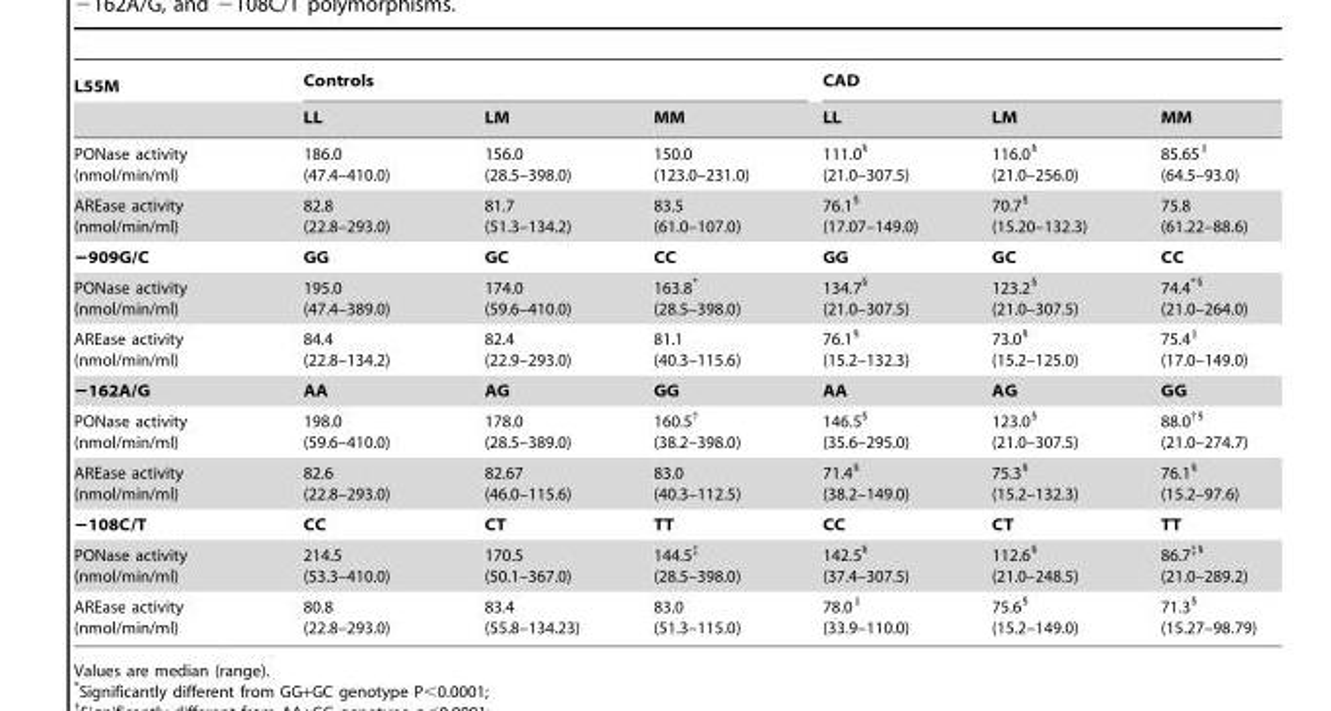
<table><thead><tr><td rowspan="2">L55M</td><td colspan="3">Controls</td><td colspan="3">CAD</td></tr><tr><td>LL</td><td>LM</td><td>MM</td><td>LL</td><td>LM</td><td>MM</td></tr></thead><tbody><tr><td>PONase activity (nmol/min/ml)</td><td>186.0 (47.4–410.0)</td><td>156.0 (28.5–398.0)</td><td>150.0 (123.0–231.0)</td><td>111.0§ (21.0–307.5)</td><td>116.0§ (21.0–256.0)</td><td>85.65∥ (64.5–93.0)</td></tr><tr><td>AREase activity (nmol/min/ml)</td><td>82.8 (22.8–293.0)</td><td>81.7 (51.3–134.2)</td><td>83.5 (61.0–107.0)</td><td>76.1§ (17.07–149.0)</td><td>70.7§ (15.20–132.3)</td><td>75.8 (61.22–88.6)</td></tr><tr><td>−909G/C</td><td>GG</td><td>GC</td><td>CC</td><td>GG</td><td>GC</td><td>CC</td></tr><tr><td>PONase activity (nmol/min/ml)</td><td>195.0 (47.4–389.0)</td><td>174.0 (59.6–410.0)</td><td>163.8* (28.5–398.0)</td><td>134.7§ (21.0–307.5)</td><td>123.2§ (21.0–307.5)</td><td>74.4*§ (21.0–264.0)</td></tr><tr><td>AREase activity (nmol/min/ml)</td><td>84.4 (22.8–134.2)</td><td>82.4 (22.9–293.0)</td><td>81.1 (40.3–115.6)</td><td>76.1§ (15.2–132.3)</td><td>73.0§ (15.2–125.0)</td><td>75.4∥ (17.0–149.0)</td></tr><tr><td>−162A/G</td><td>AA</td><td>AG</td><td>GG</td><td>AA</td><td>AG</td><td>GG</td></tr><tr><td>PONase activity (nmol/min/ml)</td><td>198.0 (59.6–410.0)</td><td>178.0 (28.5–389.0)</td><td>160.5† (38.2–398.0)</td><td>146.5§ (35.6–295.0)</td><td>123.0§ (21.0–307.5)</td><td>88.0†§ (21.0–274.7)</td></tr><tr><td>AREase activity (nmol/min/ml)</td><td>82.6 (22.8–293.0)</td><td>82.67 (46.0–115.6)</td><td>83.0 (40.3–112.5)</td><td>71.4§ (38.2–149.0)</td><td>75.3§ (15.2–132.3)</td><td>76.1§ (15.2–97.6)</td></tr><tr><td>−108C/T</td><td>CC</td><td>CT</td><td>TT</td><td>CC</td><td>CT</td><td>TT</td></tr><tr><td>PONase activity (nmol/min/ml)</td><td>214.5 (53.3–410.0)</td><td>170.5 (50.1–367.0)</td><td>144.5‡ (28.5–398.0)</td><td>142.5§ (37.4–307.5)</td><td>112.6§ (21.0–248.5)</td><td>86.7‡§ (21.0–289.2)</td></tr><tr><td>AREase activity (nmol/min/ml)</td><td>80.8 (22.8–293.0)</td><td>83.4 (55.8–134.23)</td><td>83.0 (51.3–115.0)</td><td>78.0∥ (33.9–110.0)</td><td>75.6§ (15.2–149.0)</td><td>71.3§ (15.27–98.79)</td></tr></tbody></table>